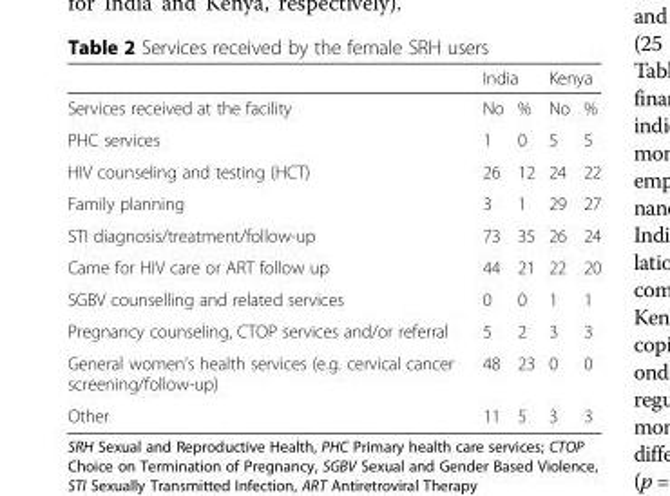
<table><thead><tr><td rowspan="2">Services received at the facility</td><td colspan="2">India</td><td colspan="2">Kenya</td></tr><tr><td>No</td><td>%</td><td>No</td><td>%</td></tr></thead><tbody><tr><td>PHC services</td><td>1</td><td>0</td><td>5</td><td>5</td></tr><tr><td>HIV counseling and testing (HCT)</td><td>26</td><td>12</td><td>24</td><td>22</td></tr><tr><td>Family planning</td><td>3</td><td>1</td><td>29</td><td>27</td></tr><tr><td>STI diagnosis/treatment/follow-up</td><td>73</td><td>35</td><td>26</td><td>24</td></tr><tr><td>Came for HIV care or ART follow up</td><td>44</td><td>21</td><td>22</td><td>20</td></tr><tr><td>SGBV counselling and related services</td><td>0</td><td>0</td><td>1</td><td>1</td></tr><tr><td>Pregnancy counseling, CTOP services and/or referral</td><td>5</td><td>2</td><td>3</td><td>3</td></tr><tr><td>General women’s health services (e.g. cervical cancer screening/follow-up)</td><td>48</td><td>23</td><td>0</td><td>0</td></tr><tr><td>Other</td><td>11</td><td>5</td><td>3</td><td>3</td></tr></tbody></table>